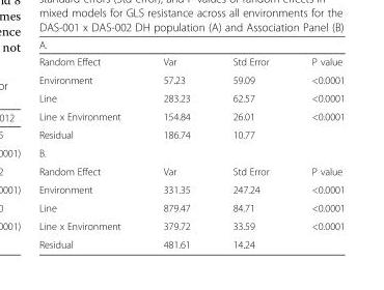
<table><thead><tr><td colspan="4">A.</td></tr><tr><td>Random Effect</td><td>Var</td><td>Std Error</td><td>P value</td></tr></thead><tbody><tr><td>Environment</td><td>57.23</td><td>59.09</td><td>&lt;0.0001</td></tr><tr><td>Line</td><td>283.23</td><td>62.57</td><td>&lt;0.0001</td></tr><tr><td>Line x Environment</td><td>154.84</td><td>26.01</td><td>&lt;0.0001</td></tr><tr><td>Residual</td><td>186.74</td><td>10.77</td><td></td></tr><tr><td colspan="4">B.</td></tr><tr><td>Random Effect</td><td>Var</td><td>Std Error</td><td>P value</td></tr><tr><td>Environment</td><td>331.35</td><td>247.24</td><td>&lt;0.0001</td></tr><tr><td>Line</td><td>879.47</td><td>84.71</td><td>&lt;0.0001</td></tr><tr><td>Line x Environment</td><td>379.72</td><td>33.59</td><td>&lt;0.0001</td></tr><tr><td>Residual</td><td>481.61</td><td>14.24</td><td></td></tr></tbody></table>